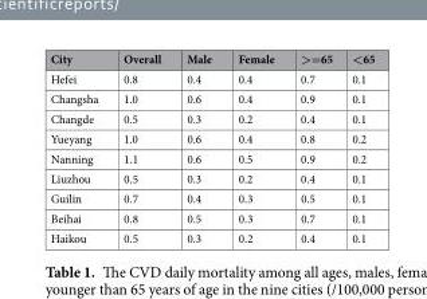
<table><thead><tr><td>City</td><td>Overall</td><td>Male</td><td>Female</td><td>&gt;=65</td><td>&lt;65</td></tr></thead><tbody><tr><td>Hefei</td><td>0.8</td><td>0.4</td><td>0.4</td><td>0.7</td><td>0.1</td></tr><tr><td>Changsha</td><td>1.0</td><td>0.6</td><td>0.4</td><td>0.9</td><td>0.1</td></tr><tr><td>Changde</td><td>0.5</td><td>0.3</td><td>0.2</td><td>0.4</td><td>0.1</td></tr><tr><td>Yueyang</td><td>1.0</td><td>0.6</td><td>0.4</td><td>0.8</td><td>0.2</td></tr><tr><td>Nanning</td><td>1.1</td><td>0.6</td><td>0.5</td><td>0.9</td><td>0.2</td></tr><tr><td>Liuzhou</td><td>0.5</td><td>0.3</td><td>0.2</td><td>0.4</td><td>0.1</td></tr><tr><td>Guilin</td><td>0.7</td><td>0.4</td><td>0.3</td><td>0.5</td><td>0.1</td></tr><tr><td>Beihai</td><td>0.8</td><td>0.5</td><td>0.3</td><td>0.7</td><td>0.1</td></tr><tr><td>Haikou</td><td>0.5</td><td>0.3</td><td>0.2</td><td>0.4</td><td>0.1</td></tr></tbody></table>